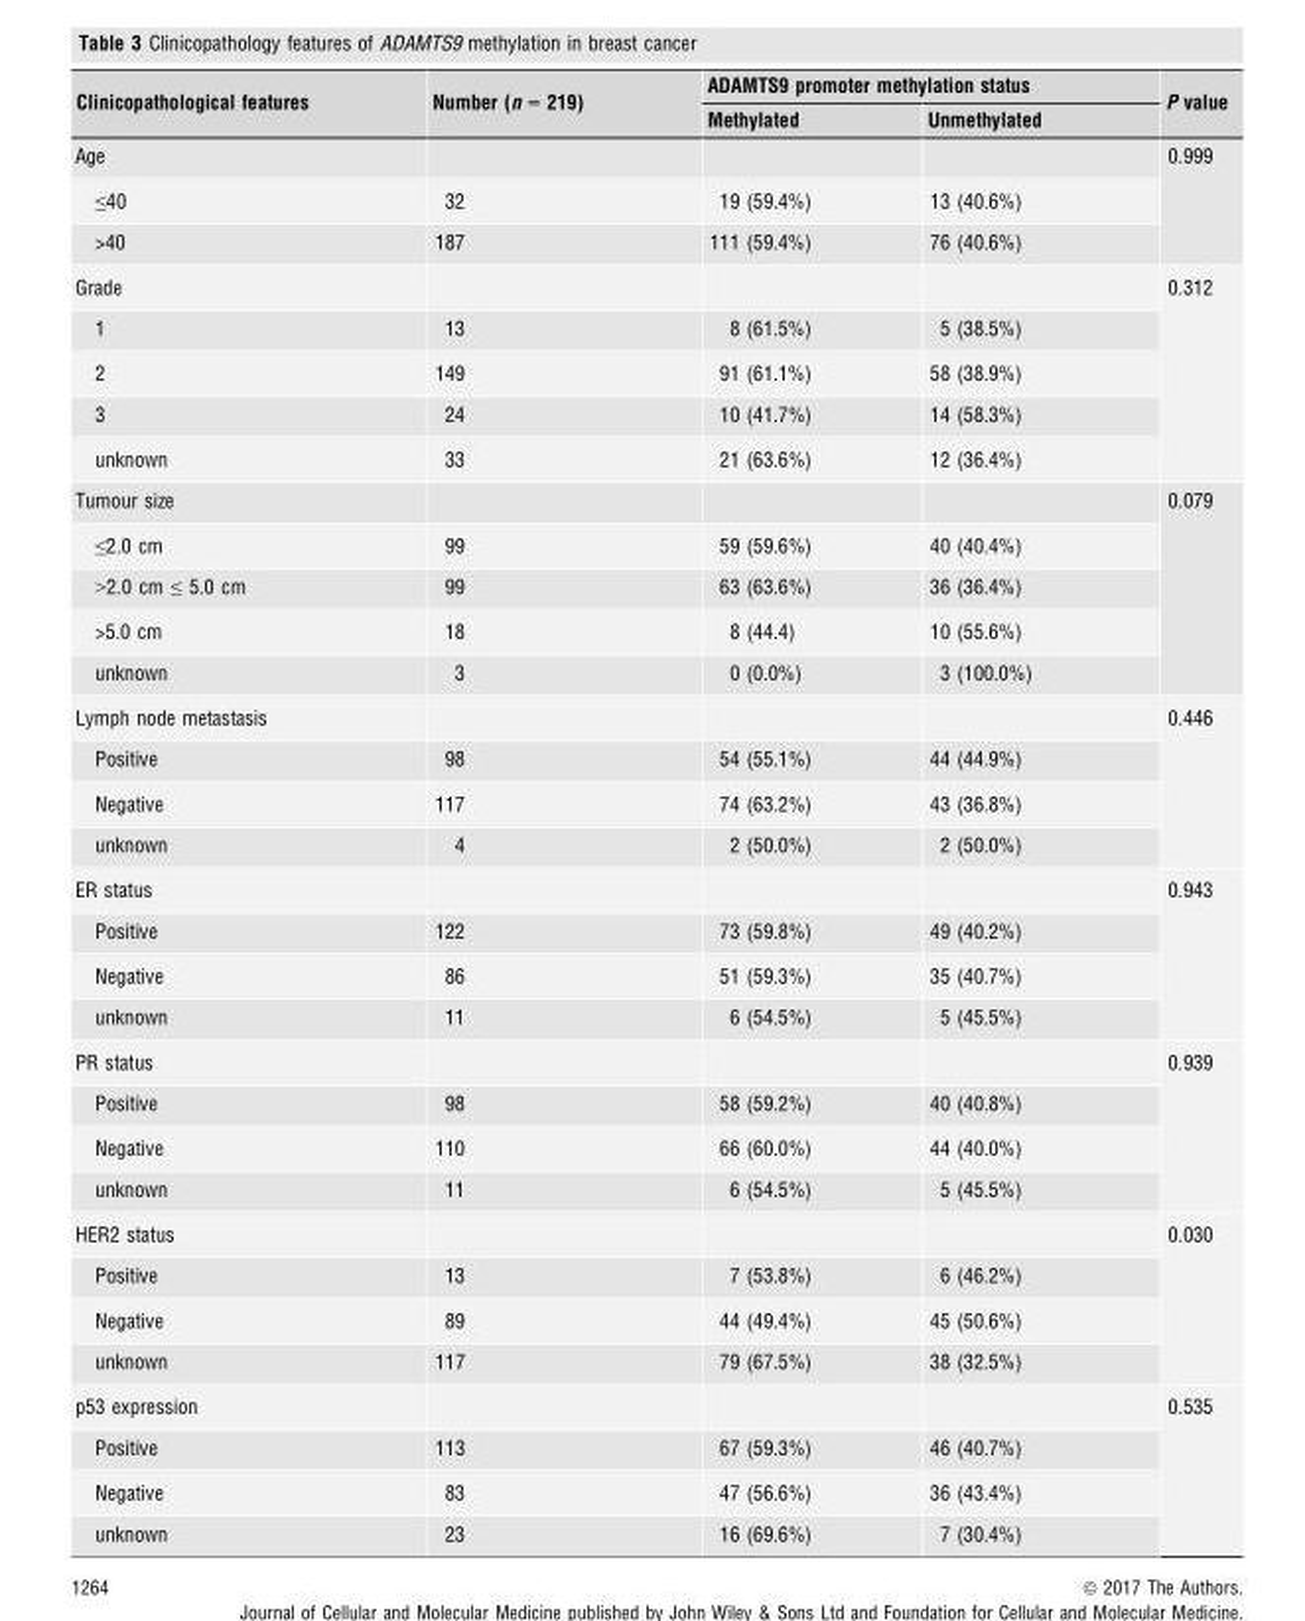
<table><thead><tr><td rowspan="2">Clinicopathological features</td><td rowspan="2">Number (n = 219)</td><td colspan="2">ADAMTS9 promoter methylation status</td><td rowspan="2">P value</td></tr><tr><td>Methylated</td><td>Unmethylated</td></tr></thead><tbody><tr><td colspan="4">Age</td><td rowspan="3">0.999</td></tr><tr><td>≤40</td><td>32</td><td>19 (59.4%)</td><td>13 (40.6%)</td></tr><tr><td>&gt;40</td><td>187</td><td>111 (59.4%)</td><td>76 (40.6%)</td></tr><tr><td colspan="4">Grade</td><td rowspan="5">0.312</td></tr><tr><td>1</td><td>13</td><td>8 (61.5%)</td><td>5 (38.5%)</td></tr><tr><td>2</td><td>149</td><td>91 (61.1%)</td><td>58 (38.9%)</td></tr><tr><td>3</td><td>24</td><td>10 (41.7%)</td><td>14 (58.3%)</td></tr><tr><td>unknown</td><td>33</td><td>21 (63.6%)</td><td>12 (36.4%)</td></tr><tr><td colspan="4">Tumour size</td><td rowspan="5">0.079</td></tr><tr><td>≤2.0 cm</td><td>99</td><td>59 (59.6%)</td><td>40 (40.4%)</td></tr><tr><td>&gt;2.0 cm ≤ 5.0 cm</td><td>99</td><td>63 (63.6%)</td><td>36 (36.4%)</td></tr><tr><td>&gt;5.0 cm</td><td>18</td><td>8 (44.4)</td><td>10 (55.6%)</td></tr><tr><td>unknown</td><td>3</td><td>0 (0.0%)</td><td>3 (100.0%)</td></tr><tr><td colspan="4">Lymph node metastasis</td><td rowspan="4">0.446</td></tr><tr><td>Positive</td><td>98</td><td>54 (55.1%)</td><td>44 (44.9%)</td></tr><tr><td>Negative</td><td>117</td><td>74 (63.2%)</td><td>43 (36.8%)</td></tr><tr><td>unknown</td><td>4</td><td>2 (50.0%)</td><td>2 (50.0%)</td></tr><tr><td colspan="4">ER status</td><td rowspan="4">0.943</td></tr><tr><td>Positive</td><td>122</td><td>73 (59.8%)</td><td>49 (40.2%)</td></tr><tr><td>Negative</td><td>86</td><td>51 (59.3%)</td><td>35 (40.7%)</td></tr><tr><td>unknown</td><td>11</td><td>6 (54.5%)</td><td>5 (45.5%)</td></tr><tr><td colspan="4">PR status</td><td rowspan="4">0.939</td></tr><tr><td>Positive</td><td>98</td><td>58 (59.2%)</td><td>40 (40.8%)</td></tr><tr><td>Negative</td><td>110</td><td>66 (60.0%)</td><td>44 (40.0%)</td></tr><tr><td>unknown</td><td>11</td><td>6 (54.5%)</td><td>5 (45.5%)</td></tr><tr><td colspan="4">HER2 status</td><td rowspan="4">0.030</td></tr><tr><td>Positive</td><td>13</td><td>7 (53.8%)</td><td>6 (46.2%)</td></tr><tr><td>Negative</td><td>89</td><td>44 (49.4%)</td><td>45 (50.6%)</td></tr><tr><td>unknown</td><td>117</td><td>79 (67.5%)</td><td>38 (32.5%)</td></tr><tr><td colspan="4">p53 expression</td><td rowspan="4">0.535</td></tr><tr><td>Positive</td><td>113</td><td>67 (59.3%)</td><td>46 (40.7%)</td></tr><tr><td>Negative</td><td>83</td><td>47 (56.6%)</td><td>36 (43.4%)</td></tr><tr><td>unknown</td><td>23</td><td>16 (69.6%)</td><td>7 (30.4%)</td></tr></tbody></table>